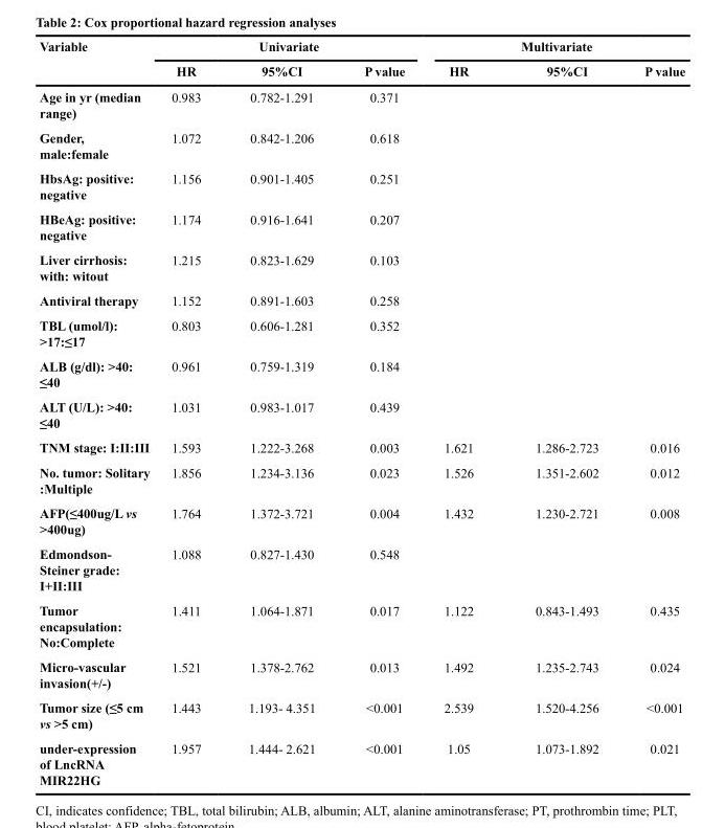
<table><thead><tr><td rowspan="2">Variable</td><td colspan="3">Univariate</td><td colspan="3">Multivariate</td></tr><tr><td>HR</td><td>95%CI</td><td>P value</td><td>HR</td><td>95%CI</td><td>P value</td></tr></thead><tbody><tr><td>Age in yr (median range)</td><td>0.983</td><td>0.782-1.291</td><td>0.371</td><td></td><td></td><td></td></tr><tr><td>Gender, male:female</td><td>1.072</td><td>0.842-1.206</td><td>0.618</td><td></td><td></td><td></td></tr><tr><td>HbsAg: positive: negative</td><td>1.156</td><td>0.901-1.405</td><td>0.251</td><td></td><td></td><td></td></tr><tr><td>HBeAg: positive: negative</td><td>1.174</td><td>0.916-1.641</td><td>0.207</td><td></td><td></td><td></td></tr><tr><td>Liver cirrhosis: with: witout</td><td>1.215</td><td>0.823-1.629</td><td>0.103</td><td></td><td></td><td></td></tr><tr><td>Antiviral therapy</td><td>1.152</td><td>0.891-1.603</td><td>0.258</td><td></td><td></td><td></td></tr><tr><td>TBL (umol/l): &gt;17:≤17</td><td>0.803</td><td>0.606-1.281</td><td>0.352</td><td></td><td></td><td></td></tr><tr><td>ALB (g/dl): &gt;40: ≤40</td><td>0.961</td><td>0.759-1.319</td><td>0.184</td><td></td><td></td><td></td></tr><tr><td>ALT (U/L): &gt;40: ≤40</td><td>1.031</td><td>0.983-1.017</td><td>0.439</td><td></td><td></td><td></td></tr><tr><td>TNM stage: I:II:III</td><td>1.593</td><td>1.222-3.268</td><td>0.003</td><td>1.621</td><td>1.286-2.723</td><td>0.016</td></tr><tr><td>No. tumor: Solitary :Multiple</td><td>1.856</td><td>1.234-3.136</td><td>0.023</td><td>1.526</td><td>1.351-2.602</td><td>0.012</td></tr><tr><td>AFP(≤400ug/L vs &gt;400ug)</td><td>1.764</td><td>1.372-3.721</td><td>0.004</td><td>1.432</td><td>1.230-2.721</td><td>0.008</td></tr><tr><td>Edmondson- Steiner grade: I+II:III</td><td>1.088</td><td>0.827-1.430</td><td>0.548</td><td colspan="3"></td></tr><tr><td>Tumor encapsulation: No:Complete</td><td>1.411</td><td>1.064-1.871</td><td>0.017</td><td>1.122</td><td>0.843-1.493</td><td>0.435</td></tr><tr><td>Micro-vascular invasion(+/-)</td><td>1.521</td><td>1.378-2.762</td><td>0.013</td><td>1.492</td><td>1.235-2.743</td><td>0.024</td></tr><tr><td>Tumor size (≤5 cm vs &gt;5 cm)</td><td>1.443</td><td>1.193- 4.351</td><td>&lt;0.001</td><td>2.539</td><td>1.520-4.256</td><td>&lt;0.001</td></tr><tr><td>under-expression of LncRNA MIR22HG</td><td>1.957</td><td>1.444- 2.621</td><td>&lt;0.001</td><td>1.05</td><td>1.073-1.892</td><td>0.021</td></tr></tbody></table>